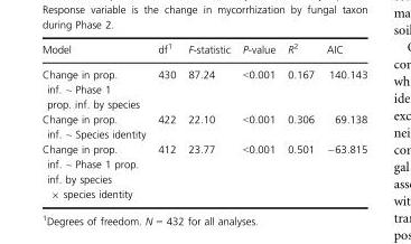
<table><thead><tr><td>Model</td><td>df1</td><td>F-statistic</td><td>P-value</td><td>R<sup>2</sup></td><td>AIC</td></tr></thead><tbody><tr><td>Change in prop. inf. ~ Phase 1 prop. inf. by species</td><td>430</td><td>87.24</td><td>&lt;0.001</td><td>0.167</td><td>140.143</td></tr><tr><td>Change in prop. inf. ~ Species identity</td><td>422</td><td>22.10</td><td>&lt;0.001</td><td>0.306</td><td>69.138</td></tr><tr><td>Change in prop. inf. ~ Phase 1 prop. inf. by species × species identity</td><td>412</td><td>23.77</td><td>&lt;0.001</td><td>0.501</td><td>−63.815</td></tr></tbody></table>